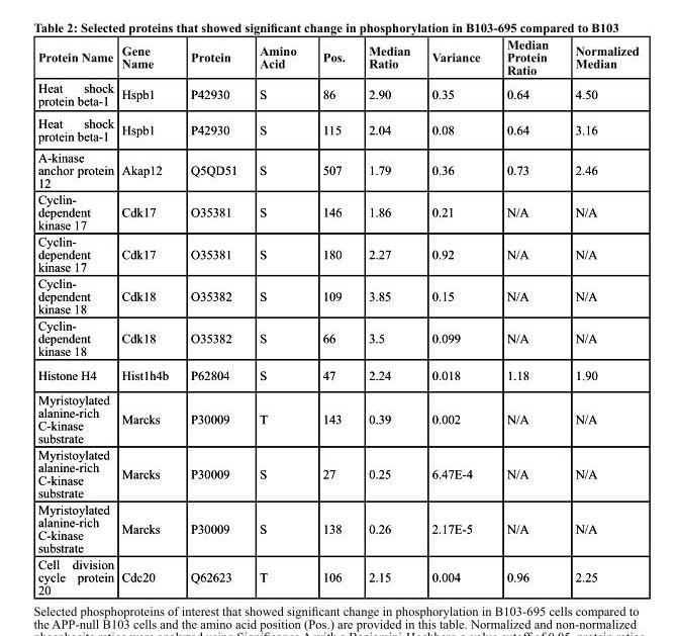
<table><thead><tr><td>Protein name</td><td>Gene name</td><td>Protein</td><td>Amino Acid</td><td>Pos.</td><td>Median ratio</td><td>Variance</td><td>Median Protein ratio</td><td>normalized Median</td></tr></thead><tbody><tr><td>Heat shock protein beta-1</td><td>Hspb1</td><td>P42930</td><td>S</td><td>86</td><td>2.90</td><td>0.35</td><td>0.64</td><td>4.50</td></tr><tr><td>Heat shock protein beta-1</td><td>Hspb1</td><td>P42930</td><td>S</td><td>115</td><td>2.04</td><td>0.08</td><td>0.64</td><td>3.16</td></tr><tr><td>A-kinase anchor protein 12</td><td>Akap12</td><td>Q5QD51</td><td>S</td><td>507</td><td>1.79</td><td>0.36</td><td>0.73</td><td>2.46</td></tr><tr><td>Cyclin- dependent kinase 17</td><td>Cdk17</td><td>O35381</td><td>S</td><td>146</td><td>1.86</td><td>0.21</td><td>N/A</td><td>N/A</td></tr><tr><td>Cyclin- dependent kinase 17</td><td>Cdk17</td><td>O35381</td><td>S</td><td>180</td><td>2.27</td><td>0.92</td><td>N/A</td><td>N/A</td></tr><tr><td>Cyclin- dependent kinase 18</td><td>Cdk18</td><td>O35382</td><td>S</td><td>109</td><td>3.85</td><td>0.15</td><td>N/A</td><td>N/A</td></tr><tr><td>Cyclin- dependent kinase 18</td><td>Cdk18</td><td>O35382</td><td>S</td><td>66</td><td>3.5</td><td>0.099</td><td>N/A</td><td>N/A</td></tr><tr><td>Histone H4</td><td>Hist1h4b</td><td>P62804</td><td>S</td><td>47</td><td>2.24</td><td>0.018</td><td>1.18</td><td>1.90</td></tr><tr><td>Myristoylated alanine-rich C-kinase substrate</td><td>Marcks</td><td>P30009</td><td>T</td><td>143</td><td>0.39</td><td>0.002</td><td>N/A</td><td>N/A</td></tr><tr><td>Myristoylated alanine-rich C-kinase substrate</td><td>Marcks</td><td>P30009</td><td>S</td><td>27</td><td>0.25</td><td>6.47E-4</td><td>N/A</td><td>N/A</td></tr><tr><td>Myristoylated alanine-rich C-kinase substrate</td><td>Marcks</td><td>P30009</td><td>S</td><td>138</td><td>0.26</td><td>2.17E-5</td><td>N/A</td><td>N/A</td></tr><tr><td>Cell division cycle protein 20</td><td>Cdc20</td><td>Q62623</td><td>T</td><td>106</td><td>2.15</td><td>0.004</td><td>0.96</td><td>2.25</td></tr></tbody></table>